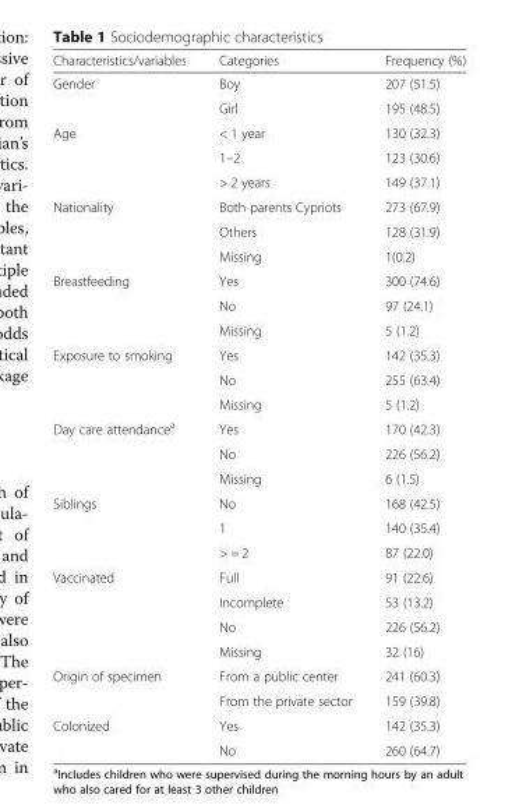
<table><thead><tr><td>Characteristics/variables</td><td>Categories</td><td>Frequency (%)</td></tr></thead><tbody><tr><td rowspan="2">Gender</td><td>Boy</td><td>207 (51.5)</td></tr><tr><td>Girl</td><td>195 (48.5)</td></tr><tr><td rowspan="3">Age</td><td>&lt; 1 year</td><td>130 (32.3)</td></tr><tr><td>1–2</td><td>123 (30.6)</td></tr><tr><td>&gt; 2 years</td><td>149 (37.1)</td></tr><tr><td rowspan="3">Nationality</td><td>Both parents Cypriots</td><td>273 (67.9)</td></tr><tr><td>Others</td><td>128 (31.9)</td></tr><tr><td>Missing</td><td>1(0.2)</td></tr><tr><td rowspan="3">Breastfeeding</td><td>Yes</td><td>300 (74.6)</td></tr><tr><td>No</td><td>97 (24.1)</td></tr><tr><td>Missing</td><td>5 (1.2)</td></tr><tr><td rowspan="3">Exposure to smoking</td><td>Yes</td><td>142 (35.3)</td></tr><tr><td>No</td><td>255 (63.4)</td></tr><tr><td>Missing</td><td>5 (1.2)</td></tr><tr><td rowspan="3">Day care attendance<sup>a</sup></td><td>Yes</td><td>170 (42.3)</td></tr><tr><td>No</td><td>226 (56.2)</td></tr><tr><td>Missing</td><td>6 (1.5)</td></tr><tr><td rowspan="3">Siblings</td><td>No</td><td>168 (42.5)</td></tr><tr><td>1</td><td>140 (35.4)</td></tr><tr><td>&gt; = 2</td><td>87 (22.0)</td></tr><tr><td rowspan="4">Vaccinated</td><td>Full</td><td>91 (22.6)</td></tr><tr><td>Incomplete</td><td>53 (13.2)</td></tr><tr><td>No</td><td>226 (56.2)</td></tr><tr><td>Missing</td><td>32 (16)</td></tr><tr><td rowspan="2">Origin of specimen</td><td>From a public center</td><td>241 (60.3)</td></tr><tr><td>From the private sector</td><td>159 (39.8)</td></tr><tr><td rowspan="2">Colonized</td><td>Yes</td><td>142 (35.3)</td></tr><tr><td>No</td><td>260 (64.7)</td></tr></tbody></table>